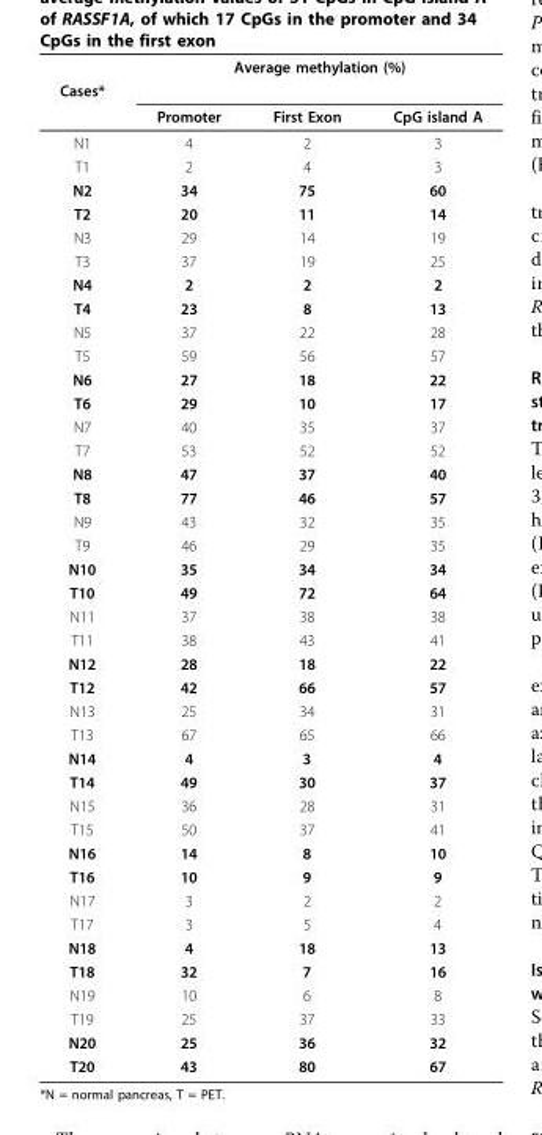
<table><thead><tr><td rowspan="3">Cases*</td><td colspan="3">Average methylation (%)</td></tr><tr><td rowspan="2">Promoter</td><td rowspan="2">First Exon</td><td rowspan="2">CpG island A</td></tr><tr></tr></thead><tbody><tr><td>N1</td><td>4</td><td>2</td><td>3</td></tr><tr><td>T1</td><td>2</td><td>4</td><td>3</td></tr><tr><td>N2</td><td>34</td><td>75</td><td>60</td></tr><tr><td>T2</td><td>20</td><td>11</td><td>14</td></tr><tr><td>N3</td><td>29</td><td>14</td><td>19</td></tr><tr><td>T3</td><td>37</td><td>19</td><td>25</td></tr><tr><td>N4</td><td>2</td><td>2</td><td>2</td></tr><tr><td>T4</td><td>23</td><td>8</td><td>13</td></tr><tr><td>N5</td><td>37</td><td>22</td><td>28</td></tr><tr><td>T5</td><td>59</td><td>56</td><td>57</td></tr><tr><td>N6</td><td>27</td><td>18</td><td>22</td></tr><tr><td>T6</td><td>29</td><td>10</td><td>17</td></tr><tr><td>N7</td><td>40</td><td>35</td><td>37</td></tr><tr><td>T7</td><td>53</td><td>52</td><td>52</td></tr><tr><td>N8</td><td>47</td><td>37</td><td>40</td></tr><tr><td>T8</td><td>77</td><td>46</td><td>57</td></tr><tr><td>N9</td><td>43</td><td>32</td><td>35</td></tr><tr><td>T9</td><td>46</td><td>29</td><td>35</td></tr><tr><td>N10</td><td>35</td><td>34</td><td>34</td></tr><tr><td>T10</td><td>49</td><td>72</td><td>64</td></tr><tr><td>N11</td><td>37</td><td>38</td><td>38</td></tr><tr><td>T11</td><td>38</td><td>43</td><td>41</td></tr><tr><td>N12</td><td>28</td><td>18</td><td>22</td></tr><tr><td>T12</td><td>42</td><td>66</td><td>57</td></tr><tr><td>N13</td><td>25</td><td>34</td><td>31</td></tr><tr><td>T13</td><td>67</td><td>65</td><td>66</td></tr><tr><td>N14</td><td>4</td><td>3</td><td>4</td></tr><tr><td>T14</td><td>49</td><td>30</td><td>37</td></tr><tr><td>N15</td><td>36</td><td>28</td><td>31</td></tr><tr><td>T15</td><td>50</td><td>37</td><td>41</td></tr><tr><td>N16</td><td>14</td><td>8</td><td>10</td></tr><tr><td>T16</td><td>10</td><td>9</td><td>9</td></tr><tr><td>N17</td><td>3</td><td>2</td><td>2</td></tr><tr><td>T17</td><td>3</td><td>5</td><td>4</td></tr><tr><td>N18</td><td>4</td><td>18</td><td>13</td></tr><tr><td>T18</td><td>32</td><td>7</td><td>16</td></tr><tr><td>N19</td><td>10</td><td>6</td><td>8</td></tr><tr><td>T19</td><td>25</td><td>37</td><td>33</td></tr><tr><td>N20</td><td>25</td><td>36</td><td>32</td></tr><tr><td>T20</td><td>43</td><td>80</td><td>67</td></tr></tbody></table>